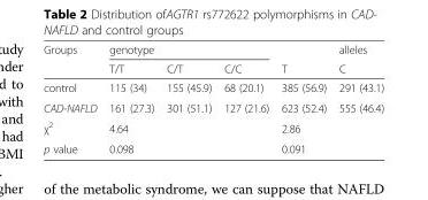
<table><thead><tr><td rowspan="2">Groups</td><td colspan="3">genotype</td><td rowspan="2">T</td><td rowspan="2">alleles C</td></tr><tr><td>T/T</td><td>C/T</td><td>C/C</td></tr></thead><tbody><tr><td>control</td><td>115 (34)</td><td>155 (45.9)</td><td>68 (20.1)</td><td>385 (56.9)</td><td>291 (43.1)</td></tr><tr><td>CAD-NAFLD</td><td>161 (27.3)</td><td>301 (51.1)</td><td>127 (21.6)</td><td>623 (52.4)</td><td>555 (46.4)</td></tr><tr><td>χ<sup>2</sup></td><td colspan="3">4.64</td><td colspan="2">2.86</td></tr><tr><td>p value</td><td colspan="3">0.098</td><td colspan="2">0.091</td></tr></tbody></table>